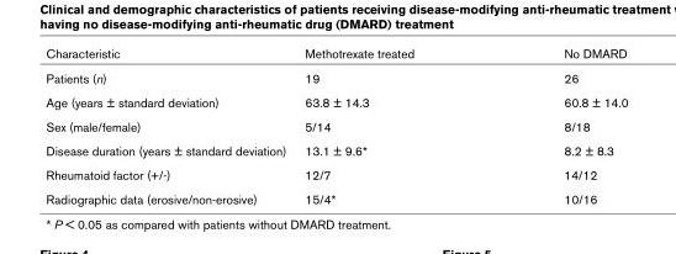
<table><thead><tr><td>Characteristic</td><td>Methotrexate treated</td><td>No DMARD</td></tr></thead><tbody><tr><td>Patients (n)</td><td>19</td><td>26</td></tr><tr><td>Age (years ± standard deviation)</td><td>63.8 ± 14.3</td><td>60.8 ± 14.0</td></tr><tr><td>Sex (male/female)</td><td>5/14</td><td>8/18</td></tr><tr><td>Disease duration (years ± standard deviation)</td><td>13.1 ± 9.6*</td><td>8.2 ± 8.3</td></tr><tr><td>Rheumatoid factor (+/-)</td><td>12/7</td><td>14/12</td></tr><tr><td>Radiographic data (erosive/non-erosive)</td><td>15/4*</td><td>10/16</td></tr></tbody></table>